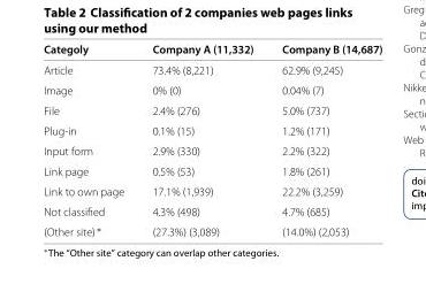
<table><thead><tr><td>Categoly</td><td>Company A (11,332)</td><td>Company B (14,687)</td></tr></thead><tbody><tr><td>Article</td><td>73.4% (8,221)</td><td>62.9% (9,245)</td></tr><tr><td>Image</td><td>0% (0)</td><td>0.04% (7)</td></tr><tr><td>File</td><td>2.4% (276)</td><td>5.0% (737)</td></tr><tr><td>Plug-in</td><td>0.1% (15)</td><td>1.2% (171)</td></tr><tr><td>Input form</td><td>2.9% (330)</td><td>2.2% (322)</td></tr><tr><td>Link page</td><td>0.5% (53)</td><td>1.8% (261)</td></tr><tr><td>Link to own page</td><td>17.1% (1,939)</td><td>22.2% (3,259)</td></tr><tr><td>Not classified</td><td>4.3% (498)</td><td>4.7% (685)</td></tr><tr><td>(Other site) ∗</td><td>(27.3%) (3,089)</td><td>(14.0%) (2,053)</td></tr></tbody></table>